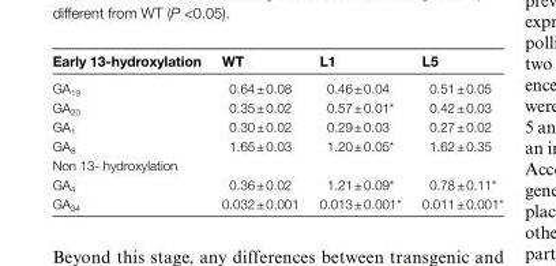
<table><thead><tr><td>Early 13-hydroxylation</td><td>WT</td><td>L1</td><td>L5</td></tr></thead><tbody><tr><td>GA<sub>19</sub></td><td>0.64 ± 0.08</td><td>0.46 ± 0.04</td><td>0.51 ± 0.05</td></tr><tr><td>GA<sub>20</sub></td><td>0.35 ± 0.02</td><td>0.57 ± 0.01*</td><td>0.42 ± 0.03</td></tr><tr><td>GA<sub>1</sub></td><td>0.30 ± 0.02</td><td>0.29 ± 0.03</td><td>0.27 ± 0.02</td></tr><tr><td>GA<sub>8</sub></td><td>1.65 ± 0.03</td><td>1.20 ± 0.05*</td><td>1.62 ± 0.35</td></tr><tr><td colspan="4">Non 13- hydroxylation</td></tr><tr><td>GA<sub>4</sub></td><td>0.36 ± 0.02</td><td>1.21 ± 0.09*</td><td>0.78 ± 0.11*</td></tr><tr><td>GA<sub>34</sub></td><td>0.032 ± 0.001</td><td>0.013 ± 0.001*</td><td>0.011 ± 0.001*</td></tr></tbody></table>